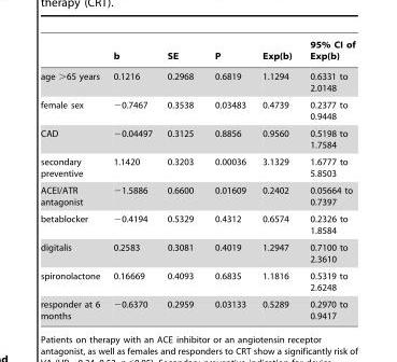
<table><thead><tr><td></td><td>b</td><td>SE</td><td>P</td><td>Exp(b)</td><td>95% CI of Exp(b)</td></tr></thead><tbody><tr><td>age &gt;65 years</td><td>0.1216</td><td>0.2968</td><td>0.6819</td><td>1.1294</td><td>0.6331 to 2.0148</td></tr><tr><td>female sex</td><td>−0.7467</td><td>0.3538</td><td>0.03483</td><td>0.4739</td><td>0.2377 to 0.9448</td></tr><tr><td>CAD</td><td>−0.04497</td><td>0.3125</td><td>0.8856</td><td>0.9560</td><td>0.5198 to 1.7584</td></tr><tr><td>secondary preventive</td><td>1.1420</td><td>0.3203</td><td>0.00036</td><td>3.1329</td><td>1.6777 to 5.8503</td></tr><tr><td>ACEI/ATR antagonist</td><td>−1.5886</td><td>0.6600</td><td>0.01609</td><td>0.2402</td><td>0.05664 to 0.7397</td></tr><tr><td>betablocker</td><td>−0.4194</td><td>0.5329</td><td>0.4312</td><td>0.6574</td><td>0.2326 to 1.8584</td></tr><tr><td>digitalis</td><td>0.2583</td><td>0.3081</td><td>0.4019</td><td>1.2947</td><td>0.7100 to 2.3610</td></tr><tr><td>spironolactone</td><td>0.16669</td><td>0.4093</td><td>0.6835</td><td>1.1816</td><td>0.5319 to 2.6248</td></tr><tr><td>responder at 6 months</td><td>−0.6370</td><td>0.2959</td><td>0.03133</td><td>0.5289</td><td>0.2970 to 0.9417</td></tr></tbody></table>